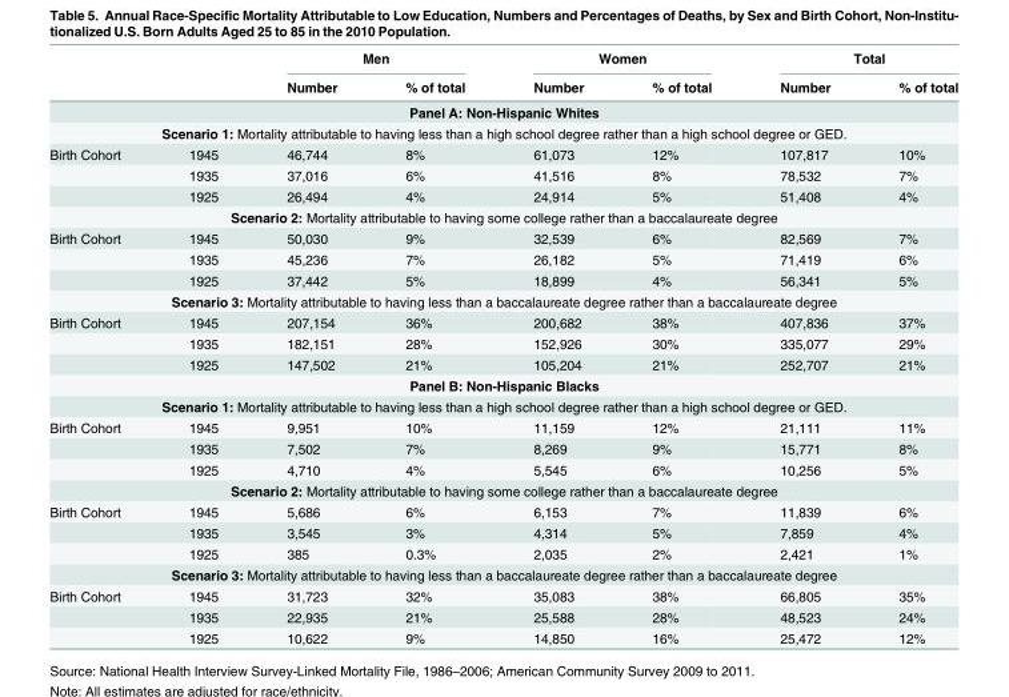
<table><thead><tr><td rowspan="2"></td><td rowspan="2"></td><td colspan="2">Men</td><td colspan="2">Women</td><td colspan="2">Total</td></tr><tr><td>Number</td><td>% of total</td><td>Number</td><td>% of total</td><td>Number</td><td>% of total</td></tr></thead><tbody><tr><td colspan="8">Panel A: Non-Hispanic Whites</td></tr><tr><td colspan="8">Scenario 1: Mortality attributable to having less than a high school degree rather than a high school degree or GED.</td></tr><tr><td rowspan="3">Birth Cohort</td><td>1945</td><td>46,744</td><td>8%</td><td>61,073</td><td>12%</td><td>107,817</td><td>10%</td></tr><tr><td>1935</td><td>37,016</td><td>6%</td><td>41,516</td><td>8%</td><td>78,532</td><td>7%</td></tr><tr><td>1925</td><td>26,494</td><td>4%</td><td>24,914</td><td>5%</td><td>51,408</td><td>4%</td></tr><tr><td colspan="8">Scenario 2: Mortality attributable to having some college rather than a baccalaureate degree</td></tr><tr><td rowspan="3">Birth Cohort</td><td>1945</td><td>50,030</td><td>9%</td><td>32,539</td><td>6%</td><td>82,569</td><td>7%</td></tr><tr><td>1935</td><td>45,236</td><td>7%</td><td>26,182</td><td>5%</td><td>71,419</td><td>6%</td></tr><tr><td>1925</td><td>37,442</td><td>5%</td><td>18,899</td><td>4%</td><td>56,341</td><td>5%</td></tr><tr><td colspan="8">Scenario 3: Mortality attributable to having less than a baccalaureate degree rather than a baccalaureate degree</td></tr><tr><td rowspan="3">Birth Cohort</td><td>1945</td><td>207,154</td><td>36%</td><td>200,682</td><td>38%</td><td>407,836</td><td>37%</td></tr><tr><td>1935</td><td>182,151</td><td>28%</td><td>152,926</td><td>30%</td><td>335,077</td><td>29%</td></tr><tr><td>1925</td><td>147,502</td><td>21%</td><td>105,204</td><td>21%</td><td>252,707</td><td>21%</td></tr><tr><td colspan="8">Panel B: Non-Hispanic Blacks</td></tr><tr><td colspan="8">Scenario 1: Mortality attributable to having less than a high school degree rather than a high school degree or GED.</td></tr><tr><td rowspan="3">Birth Cohort</td><td>1945</td><td>9,951</td><td>10%</td><td>11,159</td><td>12%</td><td>21,111</td><td>11%</td></tr><tr><td>1935</td><td>7,502</td><td>7%</td><td>8,269</td><td>9%</td><td>15,771</td><td>8%</td></tr><tr><td>1925</td><td>4,710</td><td>4%</td><td>5,545</td><td>6%</td><td>10,256</td><td>5%</td></tr><tr><td colspan="8">Scenario 2: Mortality attributable to having some college rather than a baccalaureate degree</td></tr><tr><td rowspan="3">Birth Cohort</td><td>1945</td><td>5,686</td><td>6%</td><td>6,153</td><td>7%</td><td>11,839</td><td>6%</td></tr><tr><td>1935</td><td>3,545</td><td>3%</td><td>4,314</td><td>5%</td><td>7,859</td><td>4%</td></tr><tr><td>1925</td><td>385</td><td>0.3%</td><td>2,035</td><td>2%</td><td>2,421</td><td>1%</td></tr><tr><td colspan="8">Scenario 3: Mortality attributable to having less than a baccalaureate degree rather than a baccalaureate degree</td></tr><tr><td rowspan="3">Birth Cohort</td><td>1945</td><td>31,723</td><td>32%</td><td>35,083</td><td>38%</td><td>66,805</td><td>35%</td></tr><tr><td>1935</td><td>22,935</td><td>21%</td><td>25,588</td><td>28%</td><td>48,523</td><td>24%</td></tr><tr><td>1925</td><td>10,622</td><td>9%</td><td>14,850</td><td>16%</td><td>25,472</td><td>12%</td></tr></tbody></table>